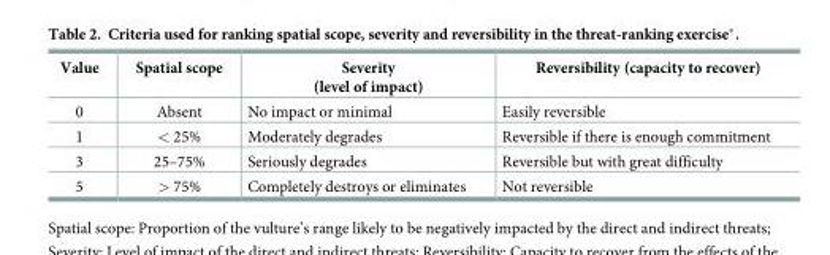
<table><thead><tr><td>Value</td><td>Spatial scope</td><td>Severity (level of impact)</td><td>Reversibility (capacity to recover)</td></tr></thead><tbody><tr><td>0</td><td>Absent</td><td>No impact or minimal</td><td>Easily reversible</td></tr><tr><td>1</td><td>&lt; 25%</td><td>Moderately degrades</td><td>Reversible if there is enough commitment</td></tr><tr><td>3</td><td>25–75%</td><td>Seriously degrades</td><td>Reversible but with great difficulty</td></tr><tr><td>5</td><td>&gt; 75%</td><td>Completely destroys or eliminates</td><td>Not reversible</td></tr></tbody></table>